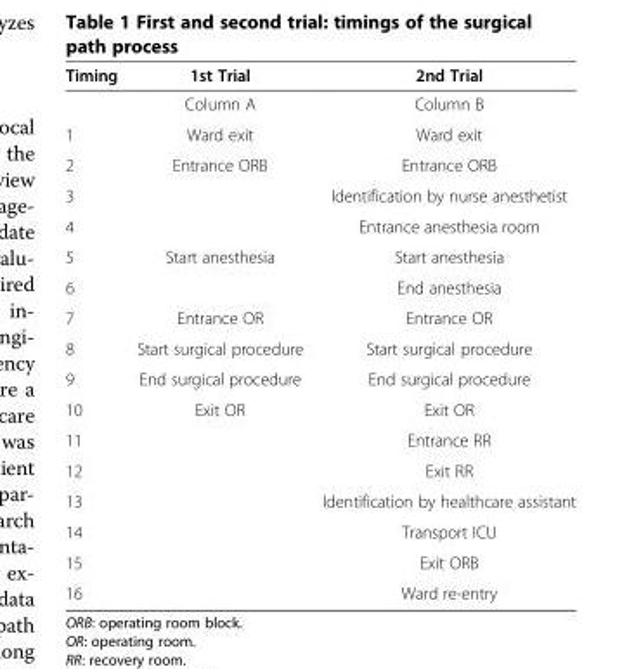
<table><thead><tr><td>Timing</td><td>1st Trial</td><td>2nd Trial</td></tr></thead><tbody><tr><td></td><td>Column A</td><td>Column B</td></tr><tr><td>1</td><td>Ward exit</td><td>Ward exit</td></tr><tr><td>2</td><td>Entrance ORB</td><td>Entrance ORB</td></tr><tr><td>3</td><td></td><td>Identification by nurse anesthetist</td></tr><tr><td>4</td><td></td><td>Entrance anesthesia room</td></tr><tr><td>5</td><td>Start anesthesia</td><td>Start anesthesia</td></tr><tr><td>6</td><td></td><td>End anesthesia</td></tr><tr><td>7</td><td>Entrance OR</td><td>Entrance OR</td></tr><tr><td>8</td><td>Start surgical procedure</td><td>Start surgical procedure</td></tr><tr><td>9</td><td>End surgical procedure</td><td>End surgical procedure</td></tr><tr><td>10</td><td>Exit OR</td><td>Exit OR</td></tr><tr><td>11</td><td></td><td>Entrance RR</td></tr><tr><td>12</td><td></td><td>Exit RR</td></tr><tr><td>13</td><td></td><td>Identification by healthcare assistant</td></tr><tr><td>14</td><td></td><td>Transport ICU</td></tr><tr><td>15</td><td></td><td>Exit ORB</td></tr><tr><td>16</td><td></td><td>Ward re-entry</td></tr></tbody></table>